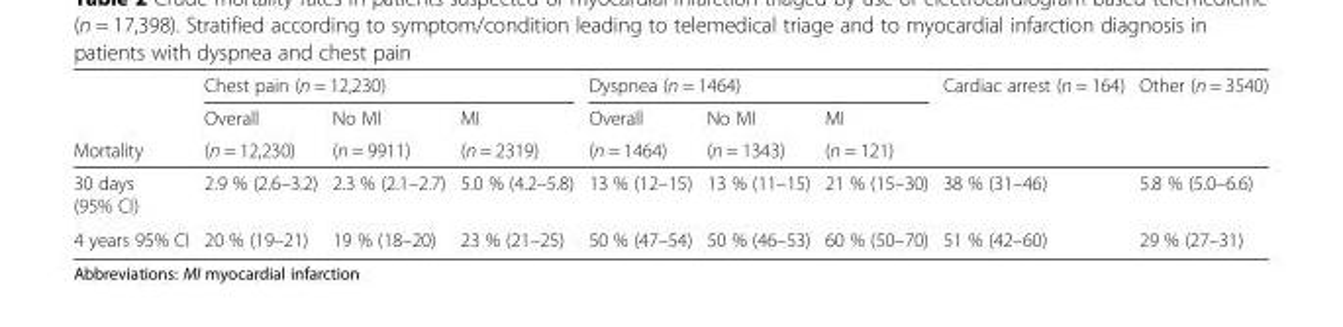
<table><thead><tr><td rowspan="3">Mortality</td><td colspan="3">Chest pain (n = 12,230)</td><td colspan="3">Dyspnea (n = 1464)</td><td rowspan="3">Cardiac arrest (n = 164)</td><td rowspan="3">Other (n = 3540)</td></tr><tr><td rowspan="2">Overall (n = 12,230)</td><td rowspan="2">No MI (n = 9911)</td><td rowspan="2">MI (n = 2319)</td><td rowspan="2">Overall (n = 1464)</td><td rowspan="2">No MI (n = 1343)</td><td rowspan="2">MI (n = 121)</td></tr><tr></tr></thead><tbody><tr><td>30 days (95% CI)</td><td>2.9 % (2.6–3.2)</td><td>2.3 % (2.1–2.7)</td><td>5.0 % (4.2–5.8)</td><td>13 % (12–15)</td><td>13 % (11–15)</td><td>21 % (15–30)</td><td>38 % (31–46)</td><td>5.8 % (5.0–6.6)</td></tr><tr><td>4 years 95% CI</td><td>20 % (19–21)</td><td>19 % (18–20)</td><td>23 % (21–25)</td><td>50 % (47–54)</td><td>50 % (46–53)</td><td>60 % (50–70)</td><td>51 % (42–60)</td><td>29 % (27–31)</td></tr></tbody></table>